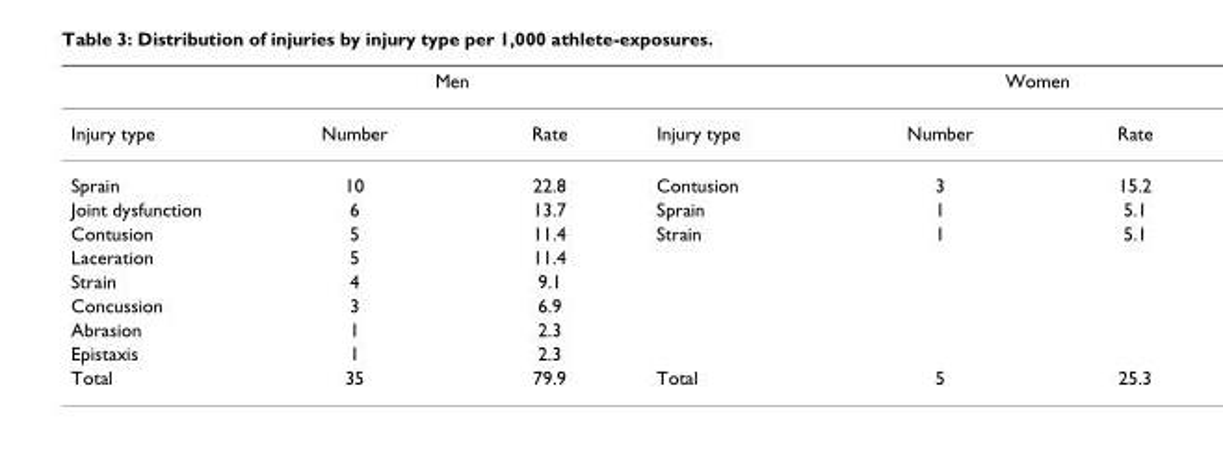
<table><thead><tr><td rowspan="2">Injury type</td><td colspan="2">Men</td><td rowspan="2">Injury type</td><td colspan="2">Women</td></tr><tr><td>Number</td><td>Rate</td><td>Number</td><td>Rate</td></tr></thead><tbody><tr><td>Sprain</td><td>10</td><td>22.8</td><td>Contusion</td><td>3</td><td>15.2</td></tr><tr><td>Joint dysfunction</td><td>6</td><td>13.7</td><td>Sprain</td><td>1</td><td>5.1</td></tr><tr><td>Contusion</td><td>5</td><td>11.4</td><td>Strain</td><td>1</td><td>5.1</td></tr><tr><td>Laceration</td><td>5</td><td>11.4</td><td></td><td></td><td></td></tr><tr><td>Strain</td><td>4</td><td>9.1</td><td></td><td></td><td></td></tr><tr><td>Concussion</td><td>3</td><td>6.9</td><td></td><td></td><td></td></tr><tr><td>Abrasion</td><td>1</td><td>2.3</td><td></td><td></td><td></td></tr><tr><td>Epistaxis</td><td>1</td><td>2.3</td><td></td><td></td><td></td></tr><tr><td>Total</td><td>35</td><td>79.9</td><td>Total</td><td>5</td><td>25.3</td></tr></tbody></table>